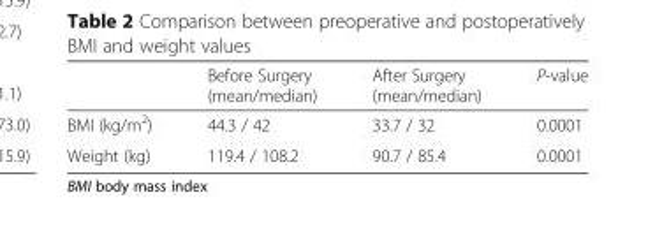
<table><thead><tr><td></td><td>Before Surgery (mean/median)</td><td>After Surgery (mean/median)</td><td>P-value</td></tr></thead><tbody><tr><td>BMI (kg/m<sup>2</sup>)</td><td>44.3 / 42</td><td>33.7 / 32</td><td>0.0001</td></tr><tr><td>Weight (kg)</td><td>119.4 / 108.2</td><td>90.7 / 85.4</td><td>0.0001</td></tr></tbody></table>